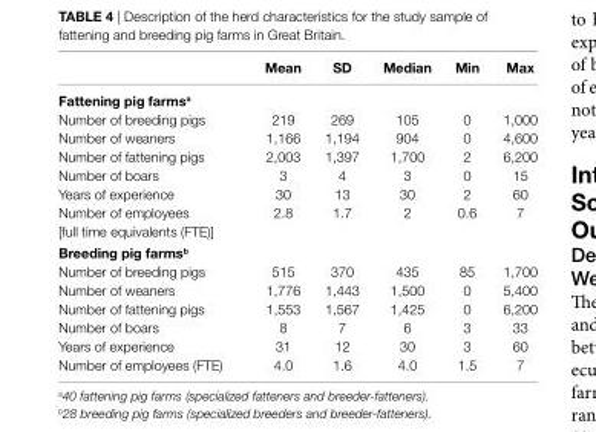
<table><thead><tr><td></td><td>Mean</td><td>sD</td><td>Median</td><td>Min</td><td>Max</td></tr></thead><tbody><tr><td colspan="6">Fattening pig farms<sup>a</sup></td></tr><tr><td>Number of breeding pigs</td><td>219</td><td>269</td><td>105</td><td>0</td><td>1,000</td></tr><tr><td>Number of weaners</td><td>1,166</td><td>1,194</td><td>904</td><td>0</td><td>4,600</td></tr><tr><td>Number of fattening pigs</td><td>2,003</td><td>1,397</td><td>1,700</td><td>2</td><td>6,200</td></tr><tr><td>Number of boars</td><td>3</td><td>4</td><td>3</td><td>0</td><td>15</td></tr><tr><td>Years of experience</td><td>30</td><td>13</td><td>30</td><td>2</td><td>60</td></tr><tr><td>Number of employees [full time equivalents (FTE)]</td><td>2.8</td><td>1.7</td><td>2</td><td>0.6</td><td>7</td></tr><tr><td colspan="6">Breeding pig farms<sup>b</sup></td></tr><tr><td>Number of breeding pigs</td><td>515</td><td>370</td><td>435</td><td>85</td><td>1,700</td></tr><tr><td>Number of weaners</td><td>1,776</td><td>1,443</td><td>1,500</td><td>0</td><td>5,400</td></tr><tr><td>Number of fattening pigs</td><td>1,553</td><td>1,567</td><td>1,425</td><td>0</td><td>6,200</td></tr><tr><td>Number of boars</td><td>8</td><td>7</td><td>6</td><td>3</td><td>33</td></tr><tr><td>Years of experience</td><td>31</td><td>12</td><td>30</td><td>3</td><td>60</td></tr><tr><td>Number of employees (FTE)</td><td>4.0</td><td>1.6</td><td>4.0</td><td>1.5</td><td>7</td></tr></tbody></table>